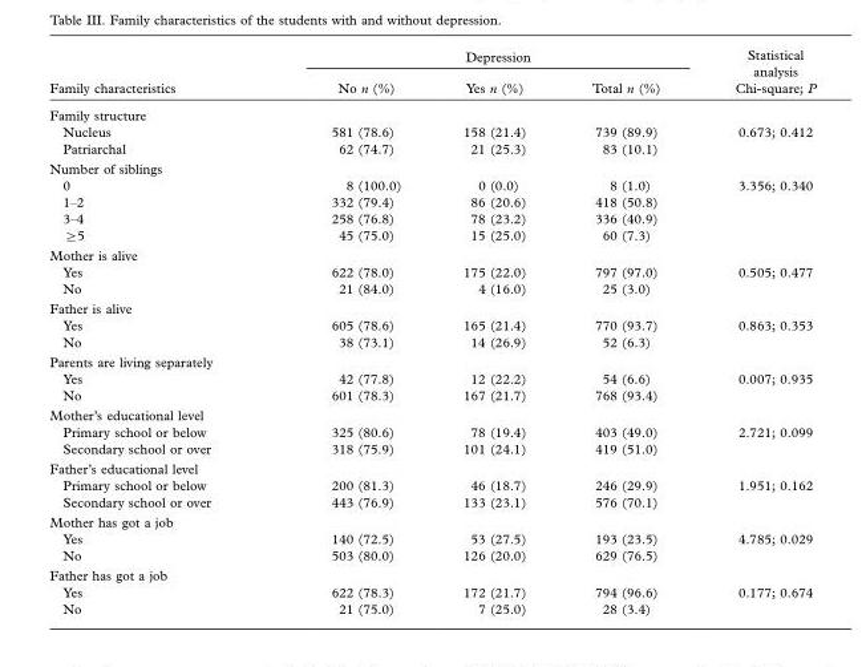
<table><thead><tr><td rowspan="2">Family characteristics</td><td colspan="3">Depression</td><td rowspan="2">Statistical analysis Chi-square; P</td></tr><tr><td>No n (%)</td><td>Yes n (%)</td><td>Total n (%)</td></tr></thead><tbody><tr><td colspan="5">Family structure</td></tr><tr><td>Nucleus</td><td>581 (78.6)</td><td>158 (21.4)</td><td>739 (89.9)</td><td>0.673; 0.412</td></tr><tr><td>Patriarchal</td><td>62 (74.7)</td><td>21 (25.3)</td><td>83 (10.1)</td><td></td></tr><tr><td colspan="5">Number of siblings</td></tr><tr><td>0</td><td>8 (100.0)</td><td>0 (0.0)</td><td>8 (1.0)</td><td>3.356; 0.340</td></tr><tr><td>1–2</td><td>332 (79.4)</td><td>86 (20.6)</td><td>418 (50.8)</td><td></td></tr><tr><td>3–4</td><td>258 (76.8)</td><td>78 (23.2)</td><td>336 (40.9)</td><td></td></tr><tr><td>≥5</td><td>45 (75.0)</td><td>15 (25.0)</td><td>60 (7.3)</td><td></td></tr><tr><td colspan="5">Mother is alive</td></tr><tr><td>Yes</td><td>622 (78.0)</td><td>175 (22.0)</td><td>797 (97.0)</td><td>0.505; 0.477</td></tr><tr><td>No</td><td>21 (84.0)</td><td>4 (16.0)</td><td>25 (3.0)</td><td></td></tr><tr><td colspan="5">Father is alive</td></tr><tr><td>Yes</td><td>605 (78.6)</td><td>165 (21.4)</td><td>770 (93.7)</td><td>0.863; 0.353</td></tr><tr><td>No</td><td>38 (73.1)</td><td>14 (26.9)</td><td>52 (6.3)</td><td></td></tr><tr><td colspan="5">Parents are living separately</td></tr><tr><td>Yes</td><td>42 (77.8)</td><td>12 (22.2)</td><td>54 (6.6)</td><td>0.007; 0.935</td></tr><tr><td>No</td><td>601 (78.3)</td><td>167 (21.7)</td><td>768 (93.4)</td><td></td></tr><tr><td colspan="5">Mother’s educational level</td></tr><tr><td>Primary school or below</td><td>325 (80.6)</td><td>78 (19.4)</td><td>403 (49.0)</td><td>2.721; 0.099</td></tr><tr><td>Secondary school or over</td><td>318 (75.9)</td><td>101 (24.1)</td><td>419 (51.0)</td><td></td></tr><tr><td colspan="5">Father’s educational level</td></tr><tr><td>Primary school or below</td><td>200 (81.3)</td><td>46 (18.7)</td><td>246 (29.9)</td><td>1.951; 0.162</td></tr><tr><td>Secondary school or over</td><td>443 (76.9)</td><td>133 (23.1)</td><td>576 (70.1)</td><td></td></tr><tr><td colspan="5">Mother has got a job</td></tr><tr><td>Yes</td><td>140 (72.5)</td><td>53 (27.5)</td><td>193 (23.5)</td><td>4.785; 0.029</td></tr><tr><td>No</td><td>503 (80.0)</td><td>126 (20.0)</td><td>629 (76.5)</td><td></td></tr><tr><td colspan="5">Father has got a job</td></tr><tr><td>Yes</td><td>622 (78.3)</td><td>172 (21.7)</td><td>794 (96.6)</td><td>0.177; 0.674</td></tr><tr><td>No</td><td>21 (75.0)</td><td>7 (25.0)</td><td>28 (3.4)</td><td></td></tr></tbody></table>